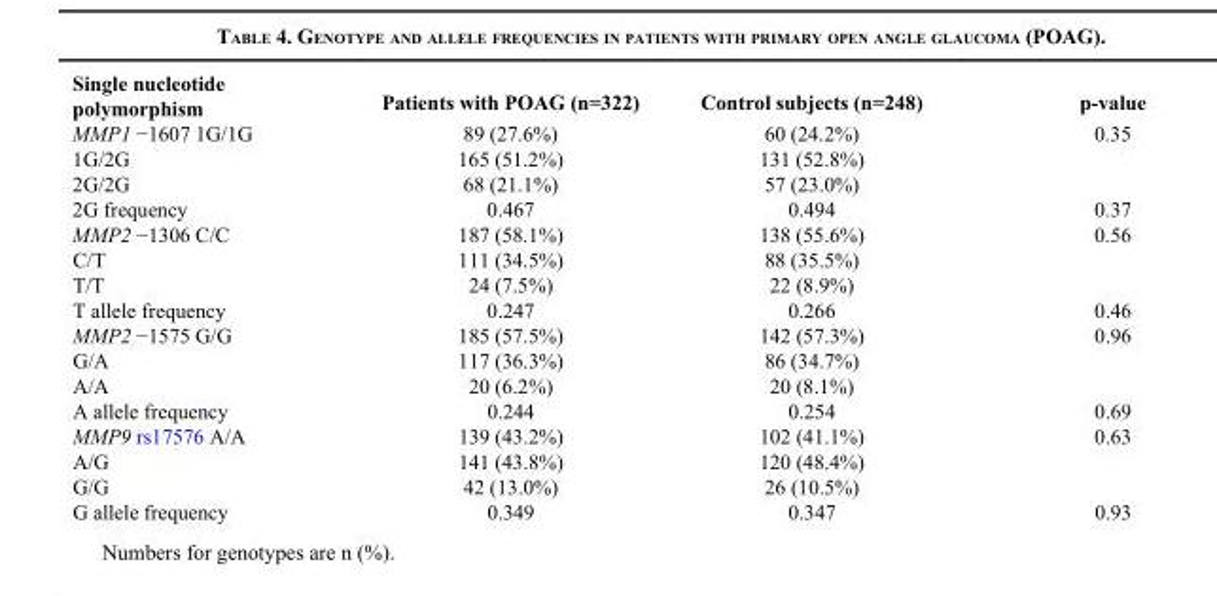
<table><thead><tr><td>Single nucleotide polymorphism</td><td>Patients with POAG (n=322)</td><td>Control subjects (n=248)</td><td>p-value</td></tr></thead><tbody><tr><td>MMP1 −1607 1G/1G</td><td>89 (27.6%)</td><td>60 (24.2%)</td><td>0.35</td></tr><tr><td>1G/2G</td><td>165 (51.2%)</td><td>131 (52.8%)</td><td></td></tr><tr><td>2G/2G</td><td>68 (21.1%)</td><td>57 (23.0%)</td><td></td></tr><tr><td>2G frequency</td><td>0.467</td><td>0.494</td><td>0.37</td></tr><tr><td>MMP2 −1306 C/C</td><td>187 (58.1%)</td><td>138 (55.6%)</td><td>0.56</td></tr><tr><td>C/T</td><td>111 (34.5%)</td><td>88 (35.5%)</td><td></td></tr><tr><td>T/T</td><td>24 (7.5%)</td><td>22 (8.9%)</td><td></td></tr><tr><td>T allele frequency</td><td>0.247</td><td>0.266</td><td>0.46</td></tr><tr><td>MMP2 −1575 G/G</td><td>185 (57.5%)</td><td>142 (57.3%)</td><td>0.96</td></tr><tr><td>G/A</td><td>117 (36.3%)</td><td>86 (34.7%)</td><td></td></tr><tr><td>A/A</td><td>20 (6.2%)</td><td>20 (8.1%)</td><td></td></tr><tr><td>A allele frequency</td><td>0.244</td><td>0.254</td><td>0.69</td></tr><tr><td>MMP9 rs17576 A/A</td><td>139 (43.2%)</td><td>102 (41.1%)</td><td>0.63</td></tr><tr><td>A/G</td><td>141 (43.8%)</td><td>120 (48.4%)</td><td></td></tr><tr><td>G/G</td><td>42 (13.0%)</td><td>26 (10.5%)</td><td></td></tr><tr><td>G allele frequency</td><td>0.349</td><td>0.347</td><td>0.93</td></tr></tbody></table>